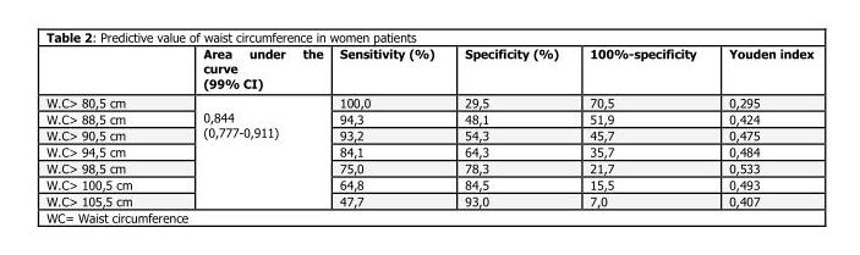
<table><thead><tr><td></td><td>Area under the curve (99% CI)</td><td>Sensitivity (%)</td><td>Specificity (%)</td><td>100%-specificity</td><td>Youden index</td></tr></thead><tbody><tr><td>W.C&gt; 80,5 cm</td><td rowspan="7">0,844 (0,777-0,911)</td><td>100,0</td><td>29,5</td><td>70,5</td><td>0,295</td></tr><tr><td>W.C&gt; 88,5 cm</td><td>94,3</td><td>48,1</td><td>51,9</td><td>0,424</td></tr><tr><td>W.C&gt; 90,5 cm</td><td>93,2</td><td>54,3</td><td>45,7</td><td>0,475</td></tr><tr><td>W.C&gt; 94,5 cm</td><td>84,1</td><td>64,3</td><td>35,7</td><td>0,484</td></tr><tr><td>W.C&gt; 98,5 cm</td><td>75,0</td><td>78,3</td><td>21,7</td><td>0,533</td></tr><tr><td>W.C&gt; 100,5 cm</td><td>64,8</td><td>84,5</td><td>15,5</td><td>0,493</td></tr><tr><td>W.C&gt; 105,5 cm</td><td>47,7</td><td>93,0</td><td>7,0</td><td>0,407</td></tr></tbody></table>